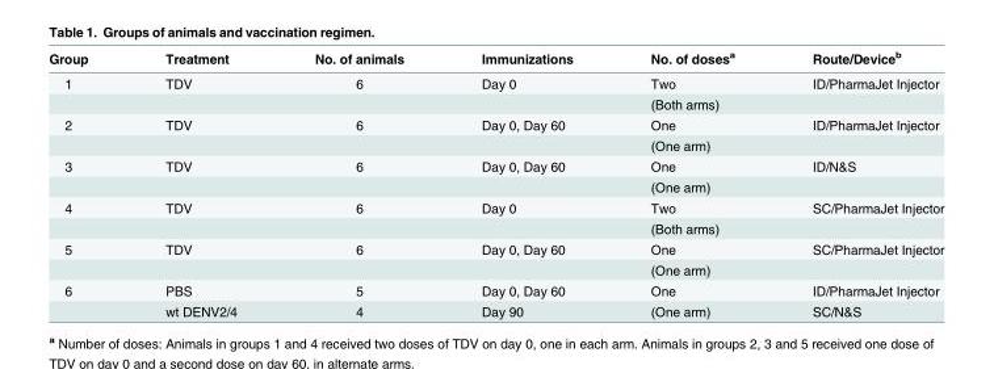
<table><thead><tr><td>Group</td><td>Treatment</td><td>No. of animals</td><td>Immunizations</td><td>No. of doses<sup>a</sup></td><td>Route/Device<sup>b</sup></td></tr></thead><tbody><tr><td rowspan="2">1</td><td>TDV</td><td>6</td><td>Day 0</td><td>Two</td><td>ID/PharmaJet Injector</td></tr><tr><td></td><td></td><td></td><td>(Both arms)</td><td></td></tr><tr><td rowspan="2">2</td><td>TDV</td><td>6</td><td>Day 0, Day 60</td><td>One</td><td>ID/PharmaJet Injector</td></tr><tr><td></td><td></td><td></td><td>(One arm)</td><td></td></tr><tr><td rowspan="2">3</td><td>TDV</td><td>6</td><td>Day 0, Day 60</td><td>One</td><td>ID/N&amp;S</td></tr><tr><td></td><td></td><td></td><td>(One arm)</td><td></td></tr><tr><td rowspan="2">4</td><td>TDV</td><td>6</td><td>Day 0</td><td>Two</td><td>SC/PharmaJet Injector</td></tr><tr><td></td><td></td><td></td><td>(Both arms)</td><td></td></tr><tr><td rowspan="2">5</td><td>TDV</td><td>6</td><td>Day 0, Day 60</td><td>One</td><td>SC/PharmaJet Injector</td></tr><tr><td></td><td></td><td></td><td>(One arm)</td><td></td></tr><tr><td rowspan="2">6</td><td>PBS</td><td>5</td><td>Day 0, Day 60</td><td>One</td><td>ID/PharmaJet Injector</td></tr><tr><td>wt DENV2/4</td><td>4</td><td>Day 90</td><td>(One arm)</td><td>SC/N&amp;S</td></tr></tbody></table>